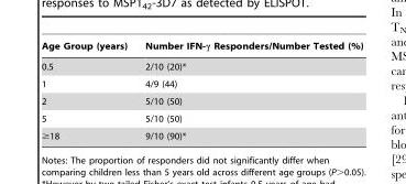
<table><thead><tr><td>Age Group (years)</td><td>Number IFN-γ Responders/Number Tested (%)</td></tr></thead><tbody><tr><td>0.5</td><td>2/10 (20)*</td></tr><tr><td>1</td><td>4/9 (44)</td></tr><tr><td>2</td><td>5/10 (50)</td></tr><tr><td>5</td><td>5/10 (50)</td></tr><tr><td>≥18</td><td>9/10 (90)*</td></tr></tbody></table>